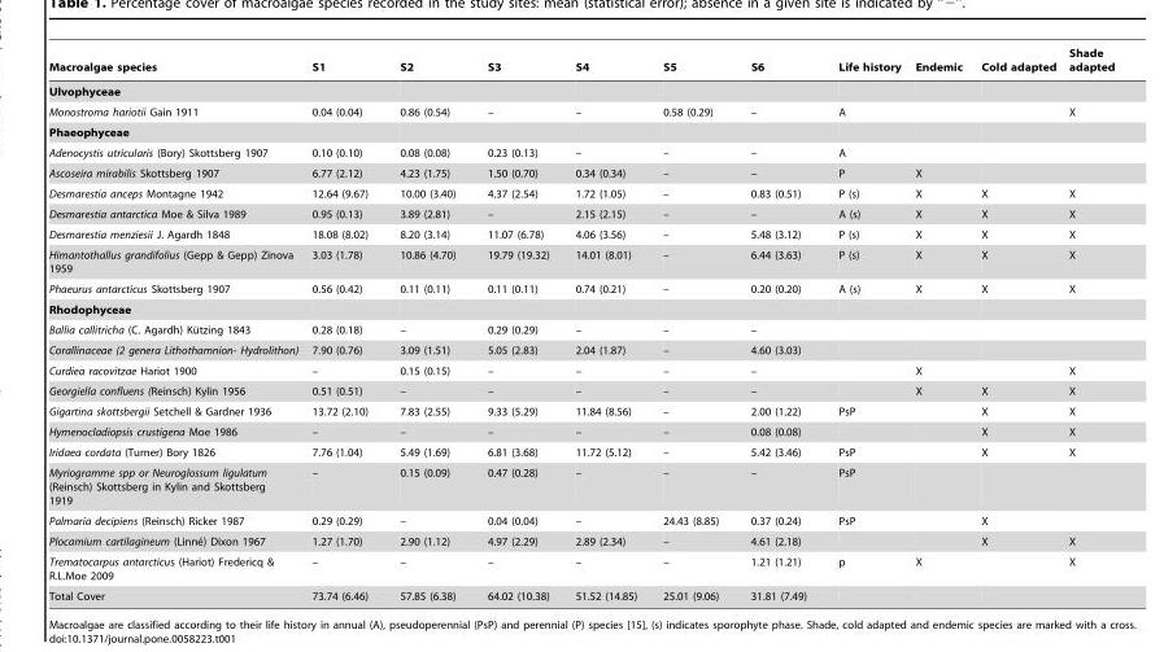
<table><thead><tr><td>Macroalgae species</td><td>S1</td><td>S2</td><td>S3</td><td>S4</td><td>S5</td><td>S6</td><td>Life history</td><td>Endemic</td><td>Cold adapted</td><td>Shade adapted</td></tr></thead><tbody><tr><td colspan="11">Ulvophyceae</td></tr><tr><td>Monostroma hariotii Gain 1911</td><td>0.04 (0.04)</td><td>0.86 (0.54)</td><td>–</td><td>–</td><td>0.58 (0.29)</td><td>–</td><td>A</td><td></td><td></td><td>X</td></tr><tr><td colspan="11">Phaeophyceae</td></tr><tr><td>Adenocystis utricularis (Bory) Skottsberg 1907</td><td>0.10 (0.10)</td><td>0.08 (0.08)</td><td>0.23 (0.13)</td><td>–</td><td>–</td><td>–</td><td>A</td><td></td><td></td><td></td></tr><tr><td>Ascoseira mirabilis Skottsberg 1907</td><td>6.77 (2.12)</td><td>4.23 (1.75)</td><td>1.50 (0.70)</td><td>0.34 (0.34)</td><td>–</td><td>–</td><td>P</td><td>X</td><td></td><td></td></tr><tr><td>Desmarestia anceps Montagne 1942</td><td>12.64 (9.67)</td><td>10.00 (3.40)</td><td>4.37 (2.54)</td><td>1.72 (1.05)</td><td>–</td><td>0.83 (0.51)</td><td>P (s)</td><td>X</td><td>X</td><td>X</td></tr><tr><td>Desmarestia antarctica Moe &amp; Silva 1989</td><td>0.95 (0.13)</td><td>3.89 (2.81)</td><td>–</td><td>2.15 (2.15)</td><td>–</td><td>–</td><td>A (s)</td><td>X</td><td>X</td><td>X</td></tr><tr><td>Desmarestia menziesii J. Agardh 1848</td><td>18.08 (8.02)</td><td>8.20 (3.14)</td><td>11.07 (6.78)</td><td>4.06 (3.56)</td><td>–</td><td>5.48 (3.12)</td><td>P (s)</td><td>X</td><td>X</td><td>X</td></tr><tr><td>Himantothallus grandifolius (Gepp &amp; Gepp) Zinova 1959</td><td>3.03 (1.78)</td><td>10.86 (4.70)</td><td>19.79 (19.32)</td><td>14.01 (8.01)</td><td>–</td><td>6.44 (3.63)</td><td>P (s)</td><td>X</td><td>X</td><td>X</td></tr><tr><td>Phaeurus antarcticus Skottsberg 1907</td><td>0.56 (0.42)</td><td>0.11 (0.11)</td><td>0.11 (0.11)</td><td>0.74 (0.21)</td><td>–</td><td>0.20 (0.20)</td><td>A (s)</td><td>X</td><td>X</td><td>X</td></tr><tr><td colspan="11">Rhodophyceae</td></tr><tr><td>Ballia callitricha (C. Agardh) Ku¨tzing 1843</td><td>0.28 (0.18)</td><td>–</td><td>0.29 (0.29)</td><td>–</td><td>–</td><td>–</td><td></td><td></td><td></td><td></td></tr><tr><td>Corallinaceae (2 genera Lithothamnion- Hydrolithon)</td><td>7.90 (0.76)</td><td>3.09 (1.51)</td><td>5.05 (2.83)</td><td>2.04 (1.87)</td><td>–</td><td>4.60 (3.03)</td><td></td><td></td><td></td><td></td></tr><tr><td>Curdiea racovitzae Hariot 1900</td><td>–</td><td>0.15 (0.15)</td><td>–</td><td>–</td><td>–</td><td>–</td><td></td><td>X</td><td></td><td>X</td></tr><tr><td>Georgiella confluens (Reinsch) Kylin 1956</td><td>0.51 (0.51)</td><td>–</td><td>–</td><td>–</td><td>–</td><td>–</td><td></td><td>X</td><td>X</td><td>X</td></tr><tr><td>Gigartina skottsbergii Setchell &amp; Gardner 1936</td><td>13.72 (2.10)</td><td>7.83 (2.55)</td><td>9.33 (5.29)</td><td>11.84 (8.56)</td><td>–</td><td>2.00 (1.22)</td><td>PsP</td><td></td><td>X</td><td>X</td></tr><tr><td>Hymenocladiopsis crustigena Moe 1986</td><td>–</td><td>–</td><td>–</td><td>–</td><td>–</td><td>0.08 (0.08)</td><td></td><td></td><td>X</td><td>X</td></tr><tr><td>Iridaea cordata (Turner) Bory 1826</td><td>7.76 (1.04)</td><td>5.49 (1.69)</td><td>6.81 (3.68)</td><td>11.72 (5.12)</td><td>–</td><td>5.42 (3.46)</td><td>PsP</td><td></td><td>X</td><td>X</td></tr><tr><td>Myriogramme spp or Neuroglossum ligulatum (Reinsch) Skottsberg in Kylin and Skottsberg 1919</td><td>–</td><td>0.15 (0.09)</td><td>0.47 (0.28)</td><td>–</td><td>–</td><td>–</td><td>PsP</td><td></td><td></td><td></td></tr><tr><td>Palmaria decipiens (Reinsch) Ricker 1987</td><td>0.29 (0.29)</td><td>–</td><td>0.04 (0.04)</td><td>–</td><td>24.43 (8.85)</td><td>0.37 (0.24)</td><td>PsP</td><td></td><td>X</td><td></td></tr><tr><td>Plocamium cartilagineum (Linne´) Dixon 1967</td><td>1.27 (1.70)</td><td>2.90 (1.12)</td><td>4.97 (2.29)</td><td>2.89 (2.34)</td><td>–</td><td>4.61 (2.18)</td><td></td><td></td><td>X</td><td>X</td></tr><tr><td>Trematocarpus antarcticus (Hariot) Fredericq &amp; R.L.Moe 2009</td><td>–</td><td>–</td><td>–</td><td>–</td><td>–</td><td>1.21 (1.21)</td><td>p</td><td>X</td><td></td><td>X</td></tr><tr><td>Total Cover</td><td>73.74 (6.46)</td><td>57.85 (6.38)</td><td>64.02 (10.38)</td><td>51.52 (14.85)</td><td>25.01 (9.06)</td><td>31.81 (7.49)</td><td></td><td></td><td></td><td></td></tr></tbody></table>